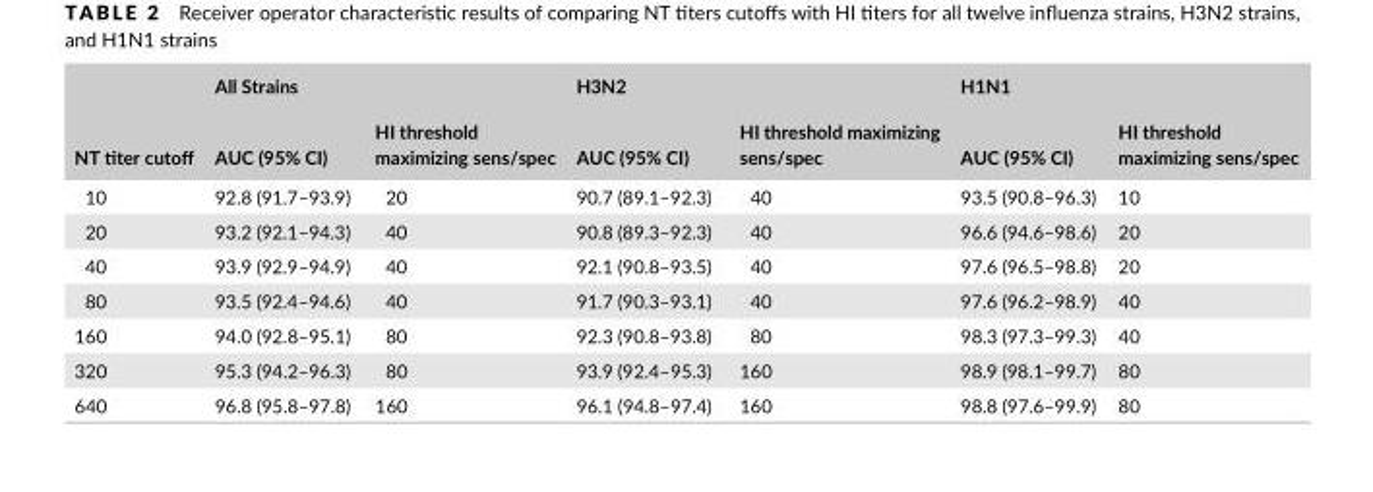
<table><thead><tr><td rowspan="2">NT titer cutoff</td><td colspan="2">All Strains</td><td colspan="2">H3N2</td><td colspan="2">H1N1</td></tr><tr><td>AUC (95% CI)</td><td>HI threshold maximizing sens/spec</td><td>AUC (95% CI)</td><td>HI threshold maximizing sens/spec</td><td>AUC (95% CI)</td><td>HI threshold maximizing sens/spec</td></tr></thead><tbody><tr><td>10</td><td>92.8 (91.7–93.9)</td><td>20</td><td>90.7 (89.1–92.3)</td><td>40</td><td>93.5 (90.8–96.3)</td><td>10</td></tr><tr><td>20</td><td>93.2 (92.1–94.3)</td><td>40</td><td>90.8 (89.3–92.3)</td><td>40</td><td>96.6 (94.6–98.6)</td><td>20</td></tr><tr><td>40</td><td>93.9 (92.9–94.9)</td><td>40</td><td>92.1 (90.8–93.5)</td><td>40</td><td>97.6 (96.5–98.8)</td><td>20</td></tr><tr><td>80</td><td>93.5 (92.4–94.6)</td><td>40</td><td>91.7 (90.3–93.1)</td><td>40</td><td>97.6 (96.2–98.9)</td><td>40</td></tr><tr><td>160</td><td>94.0 (92.8–95.1)</td><td>80</td><td>92.3 (90.8–93.8)</td><td>80</td><td>98.3 (97.3–99.3)</td><td>40</td></tr><tr><td>320</td><td>95.3 (94.2–96.3)</td><td>80</td><td>93.9 (92.4–95.3)</td><td>160</td><td>98.9 (98.1–99.7)</td><td>80</td></tr><tr><td>640</td><td>96.8 (95.8–97.8)</td><td>160</td><td>96.1 (94.8–97.4)</td><td>160</td><td>98.8 (97.6–99.9)</td><td>80</td></tr></tbody></table>